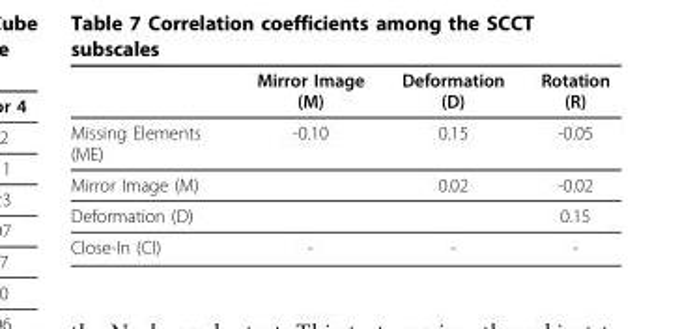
<table><thead><tr><td></td><td>Mirror Image (M)</td><td>Deformation (D)</td><td>Rotation (R)</td></tr></thead><tbody><tr><td>Missing Elements (ME)</td><td>-0.10</td><td>0.15</td><td>-0.05</td></tr><tr><td>Mirror Image (M)</td><td></td><td>0.02</td><td>-0.02</td></tr><tr><td>Deformation (D)</td><td></td><td></td><td>0.15</td></tr><tr><td>Close-In (CI)</td><td>-</td><td>-</td><td>-</td></tr></tbody></table>